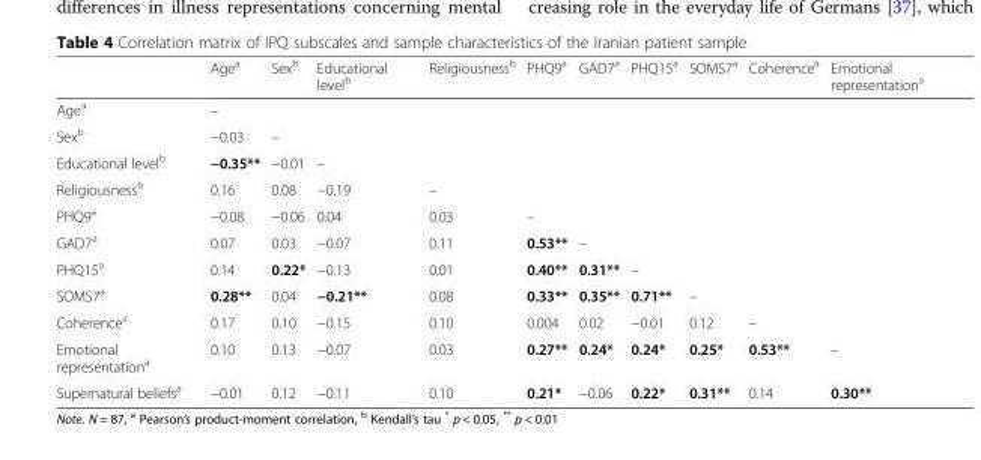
<table><thead><tr><td></td><td>Age<sup>a</sup></td><td>Sex<sup>b</sup></td><td>Educational level<sup>b</sup></td><td>Religiousness<sup>b</sup></td><td>PHQ9<sup>a</sup></td><td>GAD7<sup>a</sup></td><td>PHQ15<sup>a</sup></td><td>SOMS7<sup>a</sup></td><td>Coherence<sup>a</sup></td><td>Emotional representation<sup>a</sup></td></tr></thead><tbody><tr><td>Age<sup>a</sup></td><td>–</td><td></td><td></td><td></td><td></td><td></td><td></td><td></td><td></td><td></td></tr><tr><td>Sex<sup>b</sup></td><td>−0.03</td><td>–</td><td></td><td></td><td></td><td></td><td></td><td></td><td></td><td></td></tr><tr><td>Educational level<sup>b</sup></td><td>−0.35**</td><td>−0.01</td><td>–</td><td></td><td></td><td></td><td></td><td></td><td></td><td></td></tr><tr><td>Religiousness<sup>b</sup></td><td>0.16</td><td>0.08</td><td>−0.19</td><td>–</td><td></td><td></td><td></td><td></td><td></td><td></td></tr><tr><td>PHQ9<sup>a</sup></td><td>−0.08</td><td>−0.06</td><td>0.04</td><td>0.03</td><td>–</td><td></td><td></td><td></td><td></td><td></td></tr><tr><td>GAD7<sup>a</sup></td><td>0.07</td><td>0.03</td><td>−0.07</td><td>0.11</td><td>0.53**</td><td>–</td><td></td><td></td><td></td><td></td></tr><tr><td>PHQ15<sup>a</sup></td><td>0.14</td><td>0.22*</td><td>−0.13</td><td>0.01</td><td>0.40**</td><td>0.31**</td><td>–</td><td></td><td></td><td></td></tr><tr><td>SOMS7<sup>a</sup></td><td>0.28**</td><td>0.04</td><td>−0.21**</td><td>0.08</td><td>0.33**</td><td>0.35**</td><td>0.71**</td><td>–</td><td></td><td></td></tr><tr><td>Coherence<sup>a</sup></td><td>0.17</td><td>0.10</td><td>−0.15</td><td>0.10</td><td>0.004</td><td>0.02</td><td>−0.01</td><td>0.12</td><td>–</td><td></td></tr><tr><td>Emotional representation<sup>a</sup></td><td>0.10</td><td>0.13</td><td>−0.07</td><td>0.03</td><td>0.27**</td><td>0.24*</td><td>0.24*</td><td>0.25*</td><td>0.53**</td><td>–</td></tr><tr><td>Supernatural beliefs<sup>a</sup></td><td>−0.01</td><td>0.12</td><td>−0.11</td><td>0.10</td><td>0.21*</td><td>−0.06</td><td>0.22*</td><td>0.31**</td><td>0.14</td><td>0.30**</td></tr></tbody></table>